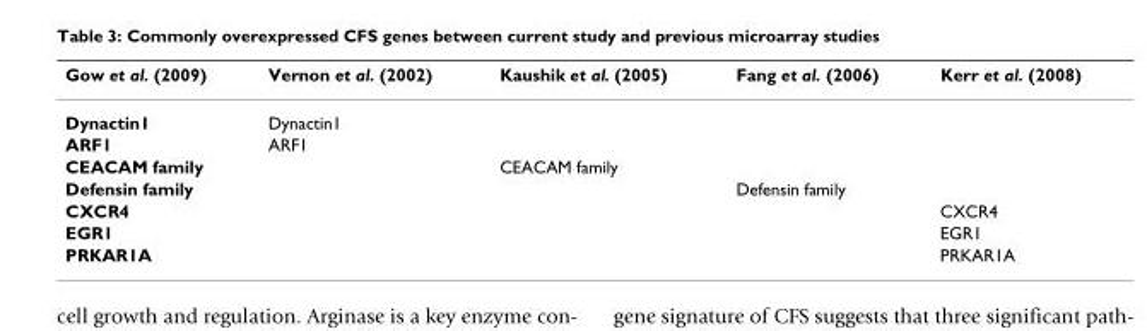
<table><thead><tr><td>Gow et al. (2009)</td><td>Vernon et al. (2002)</td><td>Kaushik et al. (2005)</td><td>Fang et al. (2006)</td><td>Kerr et al. (2008)</td></tr></thead><tbody><tr><td>Dynactin1</td><td>Dynactin1</td><td></td><td></td><td></td></tr><tr><td>ARF1</td><td>ARF1</td><td></td><td></td><td></td></tr><tr><td>CEACAM family</td><td></td><td>CEACAM family</td><td></td><td></td></tr><tr><td>Defensin family</td><td></td><td></td><td>Defensin family</td><td></td></tr><tr><td>CXCR4</td><td></td><td></td><td></td><td>CXCR4</td></tr><tr><td>EGR1</td><td></td><td></td><td></td><td>EGR1</td></tr><tr><td>PRKAR1A</td><td></td><td></td><td></td><td>PRKAR1A</td></tr></tbody></table>